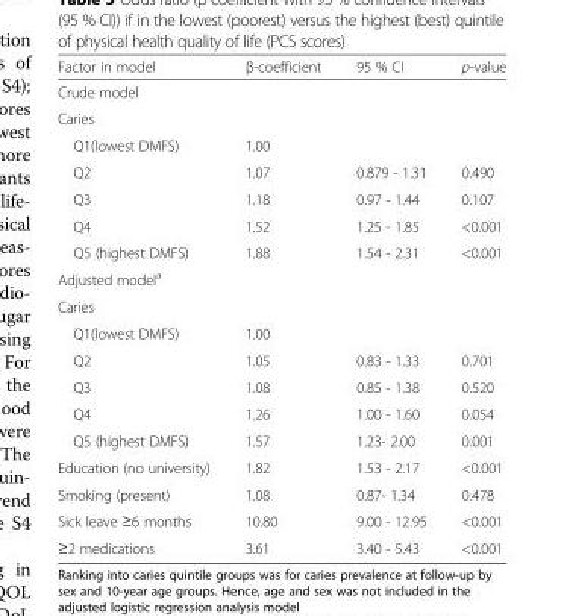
<table><thead><tr><td>Factor in model</td><td>β-coefficient</td><td>95 % CI</td><td>p-value</td></tr></thead><tbody><tr><td colspan="4">Crude model</td></tr><tr><td colspan="4">Caries</td></tr><tr><td>Q1(lowest DMFS)</td><td>1.00</td><td></td><td></td></tr><tr><td>Q2</td><td>1.07</td><td>0.879 - 1.31</td><td>0.490</td></tr><tr><td>Q3</td><td>1.18</td><td>0.97 - 1.44</td><td>0.107</td></tr><tr><td>Q4</td><td>1.52</td><td>1.25 - 1.85</td><td>&lt;0.001</td></tr><tr><td>Q5 (highest DMFS)</td><td>1.88</td><td>1.54 - 2.31</td><td>&lt;0.001</td></tr><tr><td colspan="4">Adjusted model<sup>a</sup></td></tr><tr><td colspan="4">Caries</td></tr><tr><td>Q1(lowest DMFS)</td><td>1.00</td><td></td><td></td></tr><tr><td>Q2</td><td>1.05</td><td>0.83 - 1.33</td><td>0.701</td></tr><tr><td>Q3</td><td>1.08</td><td>0.85 - 1.38</td><td>0.520</td></tr><tr><td>Q4</td><td>1.26</td><td>1.00 - 1.60</td><td>0.054</td></tr><tr><td>Q5 (highest DMFS)</td><td>1.57</td><td>1.23- 2.00</td><td>0.001</td></tr><tr><td>Education (no university)</td><td>1.82</td><td>1.53 - 2.17</td><td>&lt;0.001</td></tr><tr><td>Smoking (present)</td><td>1.08</td><td>0.87- 1.34</td><td>0.478</td></tr><tr><td>Sick leave ≥6 months</td><td>10.80</td><td>9.00 - 12.95</td><td>&lt;0.001</td></tr><tr><td>≥2 medications</td><td>3.61</td><td>3.40 - 5.43</td><td>&lt;0.001</td></tr></tbody></table>